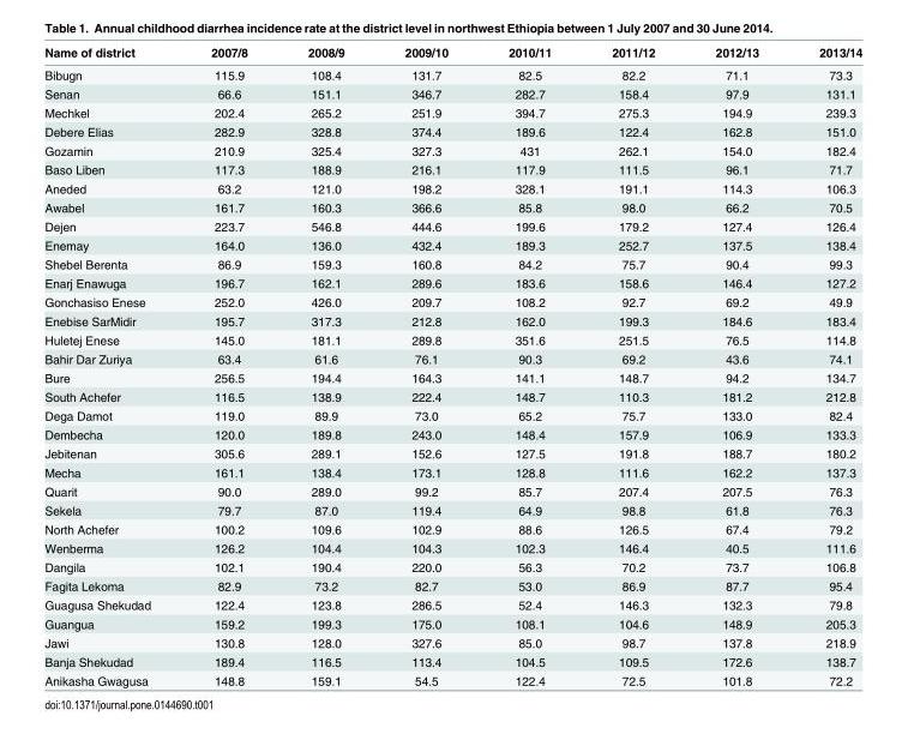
<table><thead><tr><td>Name of district</td><td>2007/8</td><td>2008/9</td><td>2009/10</td><td>2010/11</td><td>2011/12</td><td>2012/13</td><td>2013/14</td></tr></thead><tbody><tr><td>Bibugn</td><td>115.9</td><td>108.4</td><td>131.7</td><td>82.5</td><td>82.2</td><td>71.1</td><td>73.3</td></tr><tr><td>Senan</td><td>66.6</td><td>151.1</td><td>346.7</td><td>282.7</td><td>158.4</td><td>97.9</td><td>131.1</td></tr><tr><td>Mechkel</td><td>202.4</td><td>265.2</td><td>251.9</td><td>394.7</td><td>275.3</td><td>194.9</td><td>239.3</td></tr><tr><td>Debere Elias</td><td>282.9</td><td>328.8</td><td>374.4</td><td>189.6</td><td>122.4</td><td>162.8</td><td>151.0</td></tr><tr><td>Gozamin</td><td>210.9</td><td>325.4</td><td>327.3</td><td>431</td><td>262.1</td><td>154.0</td><td>182.4</td></tr><tr><td>Baso Liben</td><td>117.3</td><td>188.9</td><td>216.1</td><td>117.9</td><td>111.5</td><td>96.1</td><td>71.7</td></tr><tr><td>Aneded</td><td>63.2</td><td>121.0</td><td>198.2</td><td>328.1</td><td>191.1</td><td>114.3</td><td>106.3</td></tr><tr><td>Awabel</td><td>161.7</td><td>160.3</td><td>366.6</td><td>85.8</td><td>98.0</td><td>66.2</td><td>70.5</td></tr><tr><td>Dejen</td><td>223.7</td><td>546.8</td><td>444.6</td><td>199.6</td><td>179.2</td><td>127.4</td><td>126.4</td></tr><tr><td>Enemay</td><td>164.0</td><td>136.0</td><td>432.4</td><td>189.3</td><td>252.7</td><td>137.5</td><td>138.4</td></tr><tr><td>Shebel Berenta</td><td>86.9</td><td>159.3</td><td>160.8</td><td>84.2</td><td>75.7</td><td>90.4</td><td>99.3</td></tr><tr><td>Enarj Enawuga</td><td>196.7</td><td>162.1</td><td>289.6</td><td>183.6</td><td>158.6</td><td>146.4</td><td>127.2</td></tr><tr><td>Gonchasiso Enese</td><td>252.0</td><td>426.0</td><td>209.7</td><td>108.2</td><td>92.7</td><td>69.2</td><td>49.9</td></tr><tr><td>Enebise SarMidir</td><td>195.7</td><td>317.3</td><td>212.8</td><td>162.0</td><td>199.3</td><td>184.6</td><td>183.4</td></tr><tr><td>Huletej Enese</td><td>145.0</td><td>181.1</td><td>289.8</td><td>351.6</td><td>251.5</td><td>76.5</td><td>114.8</td></tr><tr><td>Bahir Dar Zuriya</td><td>63.4</td><td>61.6</td><td>76.1</td><td>90.3</td><td>69.2</td><td>43.6</td><td>74.1</td></tr><tr><td>Bure</td><td>256.5</td><td>194.4</td><td>164.3</td><td>141.1</td><td>148.7</td><td>94.2</td><td>134.7</td></tr><tr><td>South Achefer</td><td>116.5</td><td>138.9</td><td>222.4</td><td>148.7</td><td>110.3</td><td>181.2</td><td>212.8</td></tr><tr><td>Dega Damot</td><td>119.0</td><td>89.9</td><td>73.0</td><td>65.2</td><td>75.7</td><td>133.0</td><td>82.4</td></tr><tr><td>Dembecha</td><td>120.0</td><td>189.8</td><td>243.0</td><td>148.4</td><td>157.9</td><td>106.9</td><td>133.3</td></tr><tr><td>Jebitenan</td><td>305.6</td><td>289.1</td><td>152.6</td><td>127.5</td><td>191.8</td><td>188.7</td><td>180.2</td></tr><tr><td>Mecha</td><td>161.1</td><td>138.4</td><td>173.1</td><td>128.8</td><td>111.6</td><td>162.2</td><td>137.3</td></tr><tr><td>Quarit</td><td>90.0</td><td>289.0</td><td>99.2</td><td>85.7</td><td>207.4</td><td>207.5</td><td>76.3</td></tr><tr><td>Sekela</td><td>79.7</td><td>87.0</td><td>119.4</td><td>64.9</td><td>98.8</td><td>61.8</td><td>76.3</td></tr><tr><td>North Achefer</td><td>100.2</td><td>109.6</td><td>102.9</td><td>88.6</td><td>126.5</td><td>67.4</td><td>79.2</td></tr><tr><td>Wenberma</td><td>126.2</td><td>104.4</td><td>104.3</td><td>102.3</td><td>146.4</td><td>40.5</td><td>111.6</td></tr><tr><td>Dangila</td><td>102.1</td><td>190.4</td><td>220.0</td><td>56.3</td><td>70.2</td><td>73.7</td><td>106.8</td></tr><tr><td>Fagita Lekoma</td><td>82.9</td><td>73.2</td><td>82.7</td><td>53.0</td><td>86.9</td><td>87.7</td><td>95.4</td></tr><tr><td>Guagusa Shekudad</td><td>122.4</td><td>123.8</td><td>286.5</td><td>52.4</td><td>146.3</td><td>132.3</td><td>79.8</td></tr><tr><td>Guangua</td><td>159.2</td><td>199.3</td><td>175.0</td><td>108.1</td><td>104.6</td><td>148.9</td><td>205.3</td></tr><tr><td>Jawi</td><td>130.8</td><td>128.0</td><td>327.6</td><td>85.0</td><td>98.7</td><td>137.8</td><td>218.9</td></tr><tr><td>Banja Shekudad</td><td>189.4</td><td>116.5</td><td>113.4</td><td>104.5</td><td>109.5</td><td>172.6</td><td>138.7</td></tr><tr><td>Anikasha Gwagusa</td><td>148.8</td><td>159.1</td><td>54.5</td><td>122.4</td><td>72.5</td><td>101.8</td><td>72.2</td></tr></tbody></table>